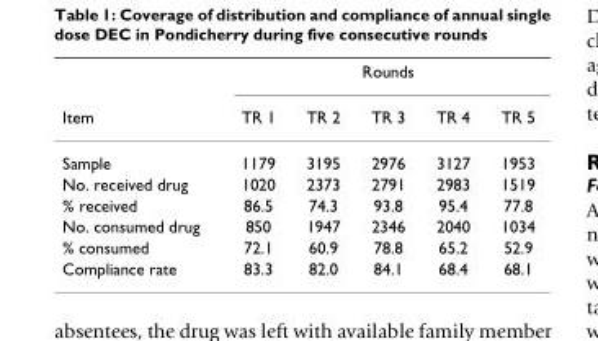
<table><thead><tr><td rowspan="2">Item</td><td colspan="5">Rounds</td></tr><tr><td>TR 1</td><td>TR 2</td><td>TR 3</td><td>TR 4</td><td>TR 5</td></tr></thead><tbody><tr><td>Sample</td><td>1179</td><td>3195</td><td>2976</td><td>3127</td><td>1953</td></tr><tr><td>No. received drug</td><td>1020</td><td>2373</td><td>2791</td><td>2983</td><td>1519</td></tr><tr><td>% received</td><td>86.5</td><td>74.3</td><td>93.8</td><td>95.4</td><td>77.8</td></tr><tr><td>No. consumed drug</td><td>850</td><td>1947</td><td>2346</td><td>2040</td><td>1034</td></tr><tr><td>% consumed</td><td>72.1</td><td>60.9</td><td>78.8</td><td>65.2</td><td>52.9</td></tr><tr><td>Compliance rate</td><td>83.3</td><td>82.0</td><td>84.1</td><td>68.4</td><td>68.1</td></tr></tbody></table>